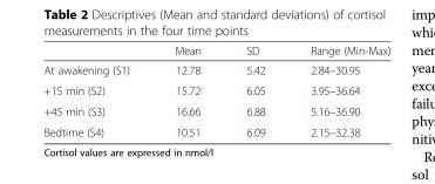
<table><thead><tr><td></td><td>Mean</td><td>SD</td><td>Range (Min-Max)</td></tr></thead><tbody><tr><td>At awakening (S1)</td><td>12.78</td><td>5.42</td><td>2.84–30.95</td></tr><tr><td>+15 min (S2)</td><td>15.72</td><td>6.05</td><td>3.95–36.64</td></tr><tr><td>+45 min (S3)</td><td>16.66</td><td>6.88</td><td>5.16–36.90</td></tr><tr><td>Bedtime (S4)</td><td>10.51</td><td>6.09</td><td>2.15–32.38</td></tr></tbody></table>